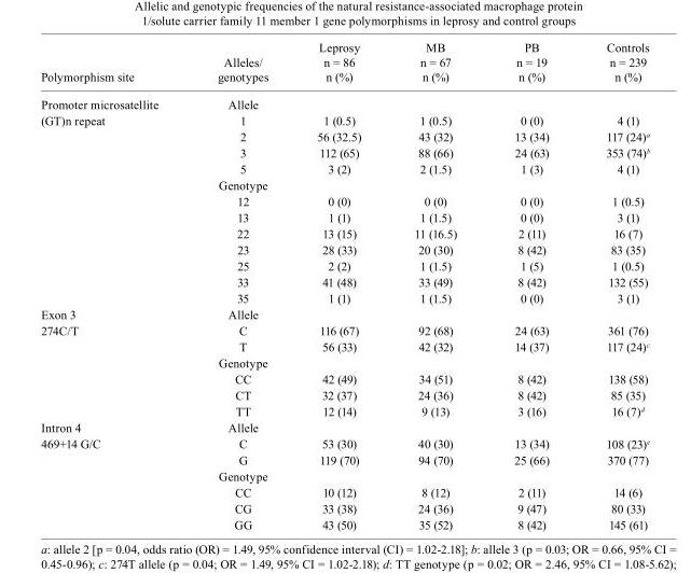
<table><thead><tr><td>Polymorphism site</td><td>Alleles/ genotypes</td><td>Leprosy n = 86 n (%)</td><td>MB n = 67 n (%)</td><td>PB n = 19 n (%)</td><td>Controls n = 239 n (%)</td></tr></thead><tbody><tr><td>Promoter microsatellite</td><td>Allele</td><td></td><td></td><td></td><td></td></tr><tr><td rowspan="12">(GT)n repeat</td><td>1</td><td>1 (0.5)</td><td>1 (0.5)</td><td>0 (0)</td><td>4 (1)</td></tr><tr><td>2</td><td>56 (32.5)</td><td>43 (32)</td><td>13 (34)</td><td>117 (24)<sup>a</sup></td></tr><tr><td>3</td><td>112 (65)</td><td>88 (66)</td><td>24 (63)</td><td>353 (74)<sup>b</sup></td></tr><tr><td>5</td><td>3 (2)</td><td>2 (1.5)</td><td>1 (3)</td><td>4 (1)</td></tr><tr><td>Genotype</td><td></td><td></td><td></td><td></td></tr><tr><td>12</td><td>0 (0)</td><td>0 (0)</td><td>0 (0)</td><td>1 (0.5)</td></tr><tr><td>13</td><td>1 (1)</td><td>1 (1.5)</td><td>0 (0)</td><td>3 (1)</td></tr><tr><td>22</td><td>13 (15)</td><td>11 (16.5)</td><td>2 (11)</td><td>16 (7)</td></tr><tr><td>23</td><td>28 (33)</td><td>20 (30)</td><td>8 (42)</td><td>83 (35)</td></tr><tr><td>25</td><td>2 (2)</td><td>1 (1.5)</td><td>1 (5)</td><td>1 (0.5)</td></tr><tr><td>33</td><td>41 (48)</td><td>33 (49)</td><td>8 (42)</td><td>132 (55)</td></tr><tr><td>35</td><td>1 (1)</td><td>1 (1.5)</td><td>0 (0)</td><td>3 (1)</td></tr><tr><td>Exon 3</td><td>Allele</td><td></td><td></td><td></td><td></td></tr><tr><td rowspan="6">274C/T</td><td>C</td><td>116 (67)</td><td>92 (68)</td><td>24 (63)</td><td>361 (76)</td></tr><tr><td>T</td><td>56 (33)</td><td>42 (32)</td><td>14 (37)</td><td>117 (24)<sup>c</sup></td></tr><tr><td>Genotype</td><td></td><td></td><td></td><td></td></tr><tr><td>CC</td><td>42 (49)</td><td>34 (51)</td><td>8 (42)</td><td>138 (58)</td></tr><tr><td>CT</td><td>32 (37)</td><td>24 (36)</td><td>8 (42)</td><td>85 (35)</td></tr><tr><td>TT</td><td>12 (14)</td><td>9 (13)</td><td>3 (16)</td><td>16 (7)<sup>d</sup></td></tr><tr><td>Intron 4</td><td>Allele</td><td></td><td></td><td></td><td></td></tr><tr><td rowspan="6">469+14 G/C</td><td>C</td><td>53 (30)</td><td>40 (30)</td><td>13 (34)</td><td>108 (23)<sup>e</sup></td></tr><tr><td>G</td><td>119 (70)</td><td>94 (70)</td><td>25 (66)</td><td>370 (77)</td></tr><tr><td>Genotype</td><td></td><td></td><td></td><td></td></tr><tr><td>CC</td><td>10 (12)</td><td>8 (12)</td><td>2 (11)</td><td>14 (6)</td></tr><tr><td>CG</td><td>33 (38)</td><td>24 (36)</td><td>9 (47)</td><td>80 (33)</td></tr><tr><td>GG</td><td>43 (50)</td><td>35 (52)</td><td>8 (42)</td><td>145 (61)</td></tr></tbody></table>